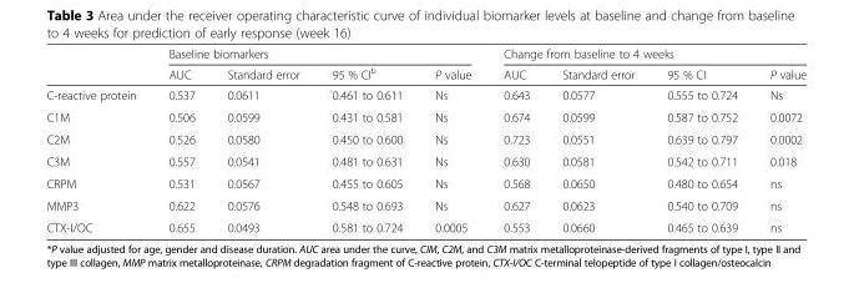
<table><thead><tr><td rowspan="2"></td><td colspan="4">Baseline biomarkers</td><td colspan="4">Change from baseline to 4 weeks</td></tr><tr><td>AUC</td><td>Standard error</td><td>95 % CI<sup>b</sup></td><td>P value</td><td>AUC</td><td>Standard error</td><td>95 % CI</td><td>P value</td></tr></thead><tbody><tr><td>C-reactive protein</td><td>0.537</td><td>0.0611</td><td>0.461 to 0.611</td><td>Ns</td><td>0.643</td><td>0.0577</td><td>0.555 to 0.724</td><td>Ns</td></tr><tr><td>C1M</td><td>0.506</td><td>0.0599</td><td>0.431 to 0.581</td><td>Ns</td><td>0.674</td><td>0.0599</td><td>0.587 to 0.752</td><td>0.0072</td></tr><tr><td>C2M</td><td>0.526</td><td>0.0580</td><td>0.450 to 0.600</td><td>Ns</td><td>0.723</td><td>0.0551</td><td>0.639 to 0.797</td><td>0.0002</td></tr><tr><td>C3M</td><td>0.557</td><td>0.0541</td><td>0.481 to 0.631</td><td>Ns</td><td>0.630</td><td>0.0581</td><td>0.542 to 0.711</td><td>0.018</td></tr><tr><td>CRPM</td><td>0.531</td><td>0.0567</td><td>0.455 to 0.605</td><td>Ns</td><td>0.568</td><td>0.0650</td><td>0.480 to 0.654</td><td>ns</td></tr><tr><td>MMP3</td><td>0.622</td><td>0.0576</td><td>0.548 to 0.693</td><td>Ns</td><td>0.627</td><td>0.0623</td><td>0.540 to 0.709</td><td>ns</td></tr><tr><td>CTX-I/OC</td><td>0.655</td><td>0.0493</td><td>0.581 to 0.724</td><td>0.0005</td><td>0.553</td><td>0.0660</td><td>0.465 to 0.639</td><td>ns</td></tr></tbody></table>